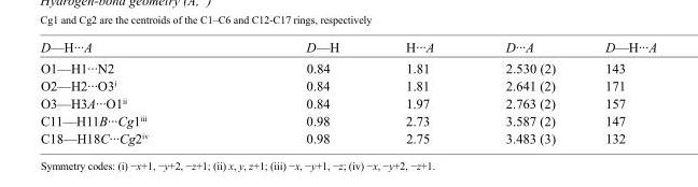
<table><tbody><tr><td>D—H···A</td><td>D—H</td><td>H···A</td><td>D···A</td><td>D—H···A</td></tr><tr><td>O1—H1···N2</td><td>0.84</td><td>1.81</td><td>2.530 (2)</td><td>143</td></tr><tr><td>O2—H2···O3<sup>i</sup></td><td>0.84</td><td>1.81</td><td>2.641 (2)</td><td>171</td></tr><tr><td>O3—H3A···O1<sup>ii</sup></td><td>0.84</td><td>1.97</td><td>2.763 (2)</td><td>157</td></tr><tr><td>C11—H11B···Cg1<sup>iii</sup></td><td>0.98</td><td>2.73</td><td>3.587 (2)</td><td>147</td></tr><tr><td>C18—H18C···Cg2<sup>iv</sup></td><td>0.98</td><td>2.75</td><td>3.483 (3)</td><td>132</td></tr></tbody></table>